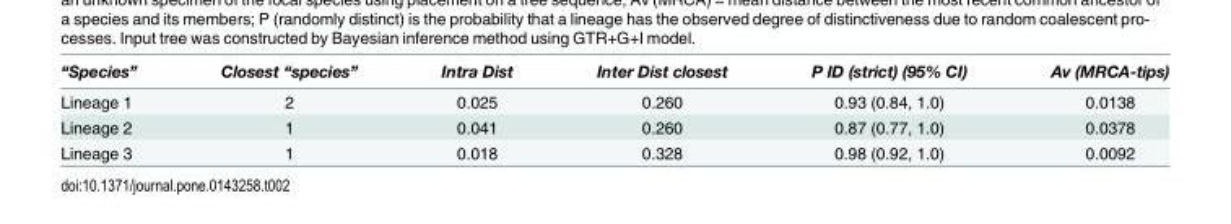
<table><thead><tr><td>“Species”</td><td>Closest “species”</td><td>Intra Dist</td><td>Inter Dist closest</td><td>P ID (strict) (95% CI)</td><td>Av (MRCA-tips)</td></tr></thead><tbody><tr><td>Lineage 1</td><td>2</td><td>0.025</td><td>0.260</td><td>0.93 (0.84, 1.0)</td><td>0.0138</td></tr><tr><td>Lineage 2</td><td>1</td><td>0.041</td><td>0.260</td><td>0.87 (0.77, 1.0)</td><td>0.0378</td></tr><tr><td>Lineage 3</td><td>1</td><td>0.018</td><td>0.328</td><td>0.98 (0.92, 1.0)</td><td>0.0092</td></tr></tbody></table>